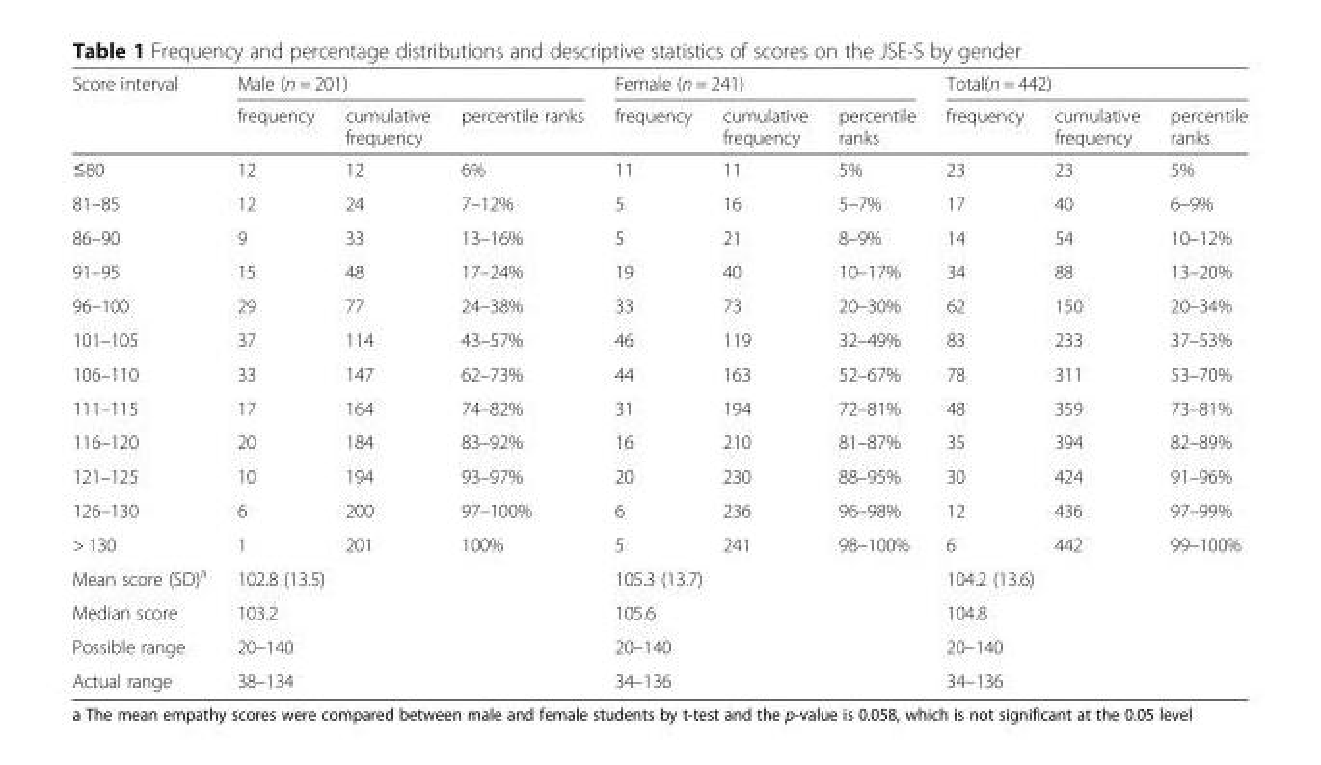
<table><thead><tr><td rowspan="2">Score interval</td><td colspan="3">Male (n = 201)</td><td colspan="3">Female (n = 241)</td><td colspan="3">Total(n = 442)</td></tr><tr><td>frequency</td><td>cumulative frequency</td><td>percentile ranks</td><td>frequency</td><td>cumulative frequency</td><td>percentile ranks</td><td>frequency</td><td>cumulative frequency</td><td>percentile ranks</td></tr></thead><tbody><tr><td>≤80</td><td>12</td><td>12</td><td>6%</td><td>11</td><td>11</td><td>5%</td><td>23</td><td>23</td><td>5%</td></tr><tr><td>81–85</td><td>12</td><td>24</td><td>7–12%</td><td>5</td><td>16</td><td>5–7%</td><td>17</td><td>40</td><td>6–9%</td></tr><tr><td>86–90</td><td>9</td><td>33</td><td>13–16%</td><td>5</td><td>21</td><td>8–9%</td><td>14</td><td>54</td><td>10–12%</td></tr><tr><td>91–95</td><td>15</td><td>48</td><td>17–24%</td><td>19</td><td>40</td><td>10–17%</td><td>34</td><td>88</td><td>13–20%</td></tr><tr><td>96–100</td><td>29</td><td>77</td><td>24–38%</td><td>33</td><td>73</td><td>20–30%</td><td>62</td><td>150</td><td>20–34%</td></tr><tr><td>101–105</td><td>37</td><td>114</td><td>43–57%</td><td>46</td><td>119</td><td>32–49%</td><td>83</td><td>233</td><td>37–53%</td></tr><tr><td>106–110</td><td>33</td><td>147</td><td>62–73%</td><td>44</td><td>163</td><td>52–67%</td><td>78</td><td>311</td><td>53–70%</td></tr><tr><td>111–115</td><td>17</td><td>164</td><td>74–82%</td><td>31</td><td>194</td><td>72–81%</td><td>48</td><td>359</td><td>73–81%</td></tr><tr><td>116–120</td><td>20</td><td>184</td><td>83–92%</td><td>16</td><td>210</td><td>81–87%</td><td>35</td><td>394</td><td>82–89%</td></tr><tr><td>121–125</td><td>10</td><td>194</td><td>93–97%</td><td>20</td><td>230</td><td>88–95%</td><td>30</td><td>424</td><td>91–96%</td></tr><tr><td>126–130</td><td>6</td><td>200</td><td>97–100%</td><td>6</td><td>236</td><td>96–98%</td><td>12</td><td>436</td><td>97–99%</td></tr><tr><td>&gt; 130</td><td>1</td><td>201</td><td>100%</td><td>5</td><td>241</td><td>98–100%</td><td>6</td><td>442</td><td>99–100%</td></tr><tr><td>Mean score (SD)<sup>a</sup></td><td colspan="3">102.8 (13.5)</td><td colspan="3">105.3 (13.7)</td><td colspan="3">104.2 (13.6)</td></tr><tr><td>Median score</td><td colspan="3">103.2</td><td colspan="3">105.6</td><td colspan="3">104.8</td></tr><tr><td>Possible range</td><td colspan="3">20–140</td><td colspan="3">20–140</td><td colspan="3">20–140</td></tr><tr><td>Actual range</td><td colspan="3">38–134</td><td colspan="3">34–136</td><td colspan="3">34–136</td></tr></tbody></table>